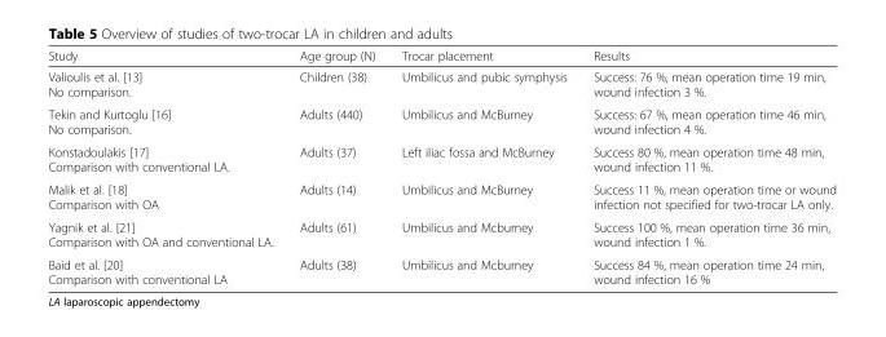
<table><thead><tr><td>Study</td><td>Age group (N)</td><td>Trocar placement</td><td>Results</td></tr></thead><tbody><tr><td>Valioulis et al. [13] No comparison.</td><td>Children (38)</td><td>Umbilicus and pubic symphysis</td><td>Success: 76 %, mean operation time 19 min, wound infection 3 %.</td></tr><tr><td>Tekin and Kurtoglu [16] No comparison.</td><td>Adults (440)</td><td>Umbilicus and McBurney</td><td>Success: 67 %, mean operation time 46 min, wound infection 4 %.</td></tr><tr><td>Konstadoulakis [17] Comparison with conventional LA.</td><td>Adults (37)</td><td>Left iliac fossa and McBurney</td><td>Success 80 %, mean operation time 48 min, wound infection 11 %.</td></tr><tr><td>Malik et al. [18] Comparison with OA</td><td>Adults (14)</td><td>Umbilicus and McBurney</td><td>Success 11 %, mean operation time or wound infection not specified for two-trocar LA only.</td></tr><tr><td>Yagnik et al. [21] Comparison with OA and conventional LA.</td><td>Adults (61)</td><td>Umbilicus and Mcburney</td><td>Success 100 %, mean operation time 36 min, wound infection 1 %.</td></tr><tr><td>Baid et al. [20] Comparison with conventional LA</td><td>Adults (38)</td><td>Umbilicus and Mcburney</td><td>Success 84 %, mean operation time 24 min, wound infection 16 %</td></tr></tbody></table>